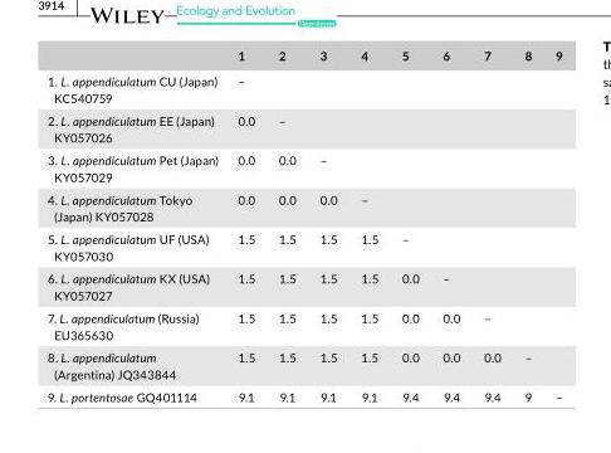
<table><thead><tr><td></td><td>1</td><td>2</td><td>3</td><td>4</td><td>5</td><td>6</td><td>7</td><td>8</td><td>9</td></tr></thead><tbody><tr><td>1. L. appendiculatum CU (Japan) KC540759</td><td>–</td><td></td><td></td><td></td><td></td><td></td><td></td><td></td><td></td></tr><tr><td>2. L. appendiculatum EE (Japan) KY057026</td><td>0.0</td><td>–</td><td></td><td></td><td></td><td></td><td></td><td></td><td></td></tr><tr><td>3. L. appendiculatum Pet (Japan) KY057029</td><td>0.0</td><td>0.0</td><td>–</td><td></td><td></td><td></td><td></td><td></td><td></td></tr><tr><td>4. L. appendiculatum Tokyo (Japan) KY057028</td><td>0.0</td><td>0.0</td><td>0.0</td><td>–</td><td></td><td></td><td></td><td></td><td></td></tr><tr><td>5. L. appendiculatum UF (USA) KY057030</td><td>1.5</td><td>1.5</td><td>1.5</td><td>1.5</td><td>–</td><td></td><td></td><td></td><td></td></tr><tr><td>6. L. appendiculatum KX (USA) KY057027</td><td>1.5</td><td>1.5</td><td>1.5</td><td>1.5</td><td>0.0</td><td>–</td><td></td><td></td><td></td></tr><tr><td>7. L. appendiculatum (Russia) EU365630</td><td>1.5</td><td>1.5</td><td>1.5</td><td>1.5</td><td>0.0</td><td>0.0</td><td>–</td><td></td><td></td></tr><tr><td>8. L. appendiculatum (Argentina) JQ343844</td><td>1.5</td><td>1.5</td><td>1.5</td><td>1.5</td><td>0.0</td><td>0.0</td><td>0.0</td><td>–</td><td></td></tr><tr><td>9. L. portentosae GQ401114</td><td>9.1</td><td>9.1</td><td>9.1</td><td>9.1</td><td>9.4</td><td>9.4</td><td>9.4</td><td>9</td><td>–</td></tr></tbody></table>